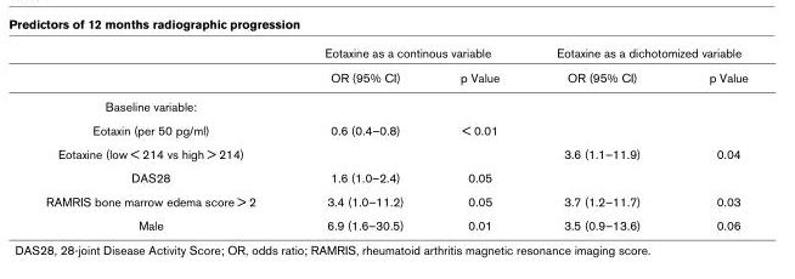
<table><thead><tr><td rowspan="2"></td><td colspan="2">Eotaxine as a continous variable</td><td colspan="2">Eotaxine as a dichotomized variable</td></tr><tr><td>OR (95% CI)</td><td>p Value</td><td>OR (95% CI)</td><td>p Value</td></tr></thead><tbody><tr><td colspan="5">Baseline variable:</td></tr><tr><td>Eotaxin (per 50 pg/ml)</td><td>0.6 (0.4–0.8)</td><td>&lt; 0.01</td><td></td><td></td></tr><tr><td>Eotaxine (low &lt; 214 vs high &gt; 214)</td><td></td><td></td><td>3.6 (1.1–11.9)</td><td>0.04</td></tr><tr><td>DAS28</td><td>1.6 (1.0–2.4)</td><td>0.05</td><td></td><td></td></tr><tr><td>RAMRIS bone marrow edema score &gt; 2</td><td>3.4 (1.0–11.2)</td><td>0.05</td><td>3.7 (1.2–11.7)</td><td>0.03</td></tr><tr><td>Male</td><td>6.9 (1.6–30.5)</td><td>0.01</td><td>3.5 (0.9–13.6)</td><td>0.06</td></tr></tbody></table>